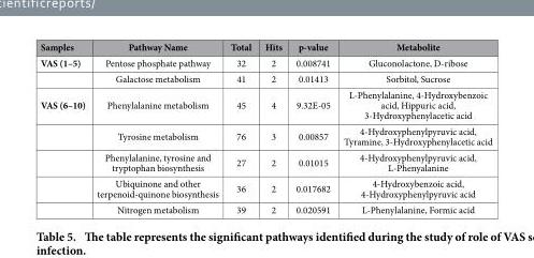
<table><thead><tr><td>Samples</td><td>Pathway Name</td><td>Total</td><td>Hits</td><td>p-value</td><td>Metabolite</td></tr></thead><tbody><tr><td rowspan="2">VAS (1–5)</td><td>Pentose phosphate pathway</td><td>32</td><td>2</td><td>0.008741</td><td>Gluconolactone, D-ribose</td></tr><tr><td>Galactose metabolism</td><td>41</td><td>2</td><td>0.01413</td><td>Sorbitol, Sucrose</td></tr><tr><td rowspan="5">VAS (6–10)</td><td>Phenylalanine metabolism</td><td>45</td><td>4</td><td>9.32E-05</td><td>L-Phenylalanine, 4-Hydroxybenzoic acid, Hippuric acid, 3-Hydroxyphenylacetic acid</td></tr><tr><td>Tyrosine metabolism</td><td>76</td><td>3</td><td>0.00857</td><td>4-Hydroxyphenylpyruvic acid, Tyramine, 3-Hydroxyphenylacetic acid</td></tr><tr><td>Phenylalanine, tyrosine and tryptophan biosynthesis</td><td>27</td><td>2</td><td>0.01015</td><td>4-Hydroxyphenylpyruvic acid, L-Phenyalanine</td></tr><tr><td>Ubiquinone and other terpenoid-quinone biosynthesis</td><td>36</td><td>2</td><td>0.017682</td><td>4-Hydroxybenzoic acid, 4-Hydroxyphenylpyruvic acid</td></tr><tr><td>Nitrogen metabolism</td><td>39</td><td>2</td><td>0.020591</td><td>L-Phenylalanine, Formic acid</td></tr></tbody></table>